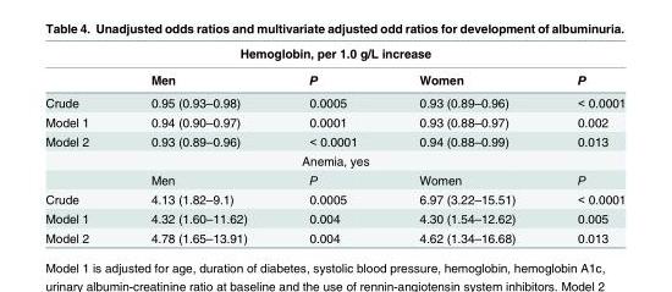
<table><thead><tr><td colspan="5">Hemoglobin, per 1.0 g/L increase</td></tr><tr><td></td><td>Men</td><td>P</td><td>Women</td><td>P</td></tr></thead><tbody><tr><td>Crude</td><td>0.95 (0.93–0.98)</td><td>0.0005</td><td>0.93 (0.89–0.96)</td><td>&lt; 0.0001</td></tr><tr><td>Model 1</td><td>0.94 (0.90–0.97)</td><td>0.0001</td><td>0.93 (0.88–0.97)</td><td>0.002</td></tr><tr><td>Model 2</td><td>0.93 (0.89–0.96)</td><td>&lt; 0.0001</td><td>0.94 (0.88–0.99)</td><td>0.013</td></tr><tr><td colspan="5">Anemia, yes</td></tr><tr><td></td><td>Men</td><td>P</td><td>Women</td><td>P</td></tr><tr><td>Crude</td><td>4.13 (1.82–9.1)</td><td>0.0005</td><td>6.97 (3.22–15.51)</td><td>&lt; 0.0001</td></tr><tr><td>Model 1</td><td>4.32 (1.60–11.62)</td><td>0.004</td><td>4.30 (1.54–12.62)</td><td>0.005</td></tr><tr><td>Model 2</td><td>4.78 (1.65–13.91)</td><td>0.004</td><td>4.62 (1.34–16.68)</td><td>0.013</td></tr></tbody></table>